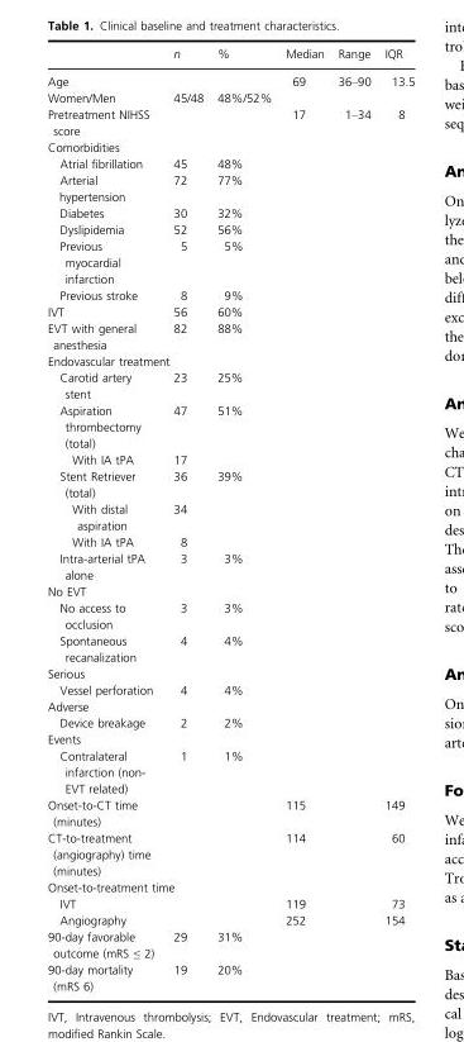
<table><thead><tr><td></td><td>n</td><td>%</td><td>Median</td><td>Range</td><td>IQR</td></tr></thead><tbody><tr><td>Age</td><td></td><td></td><td>69</td><td>36–90</td><td>13.5</td></tr><tr><td>Women/Men</td><td>45/48</td><td>48%/52%</td><td></td><td></td><td></td></tr><tr><td>Pretreatment NIHSS score</td><td></td><td></td><td>17</td><td>1–34</td><td>8</td></tr><tr><td colspan="6">Comorbidities</td></tr><tr><td>Atrial fibrillation</td><td>45</td><td>48%</td><td></td><td></td><td></td></tr><tr><td>Arterial hypertension</td><td>72</td><td>77%</td><td></td><td></td><td></td></tr><tr><td>Diabetes</td><td>30</td><td>32%</td><td></td><td></td><td></td></tr><tr><td>Dyslipidemia</td><td>52</td><td>56%</td><td></td><td></td><td></td></tr><tr><td>Previous myocardial infarction</td><td>5</td><td>5%</td><td></td><td></td><td></td></tr><tr><td>Previous stroke</td><td>8</td><td>9%</td><td></td><td></td><td></td></tr><tr><td>IVT</td><td>56</td><td>60%</td><td></td><td></td><td></td></tr><tr><td>EVT with general anesthesia</td><td>82</td><td>88%</td><td></td><td></td><td></td></tr><tr><td colspan="6">Endovascular treatment</td></tr><tr><td>Carotid artery stent</td><td>23</td><td>25%</td><td></td><td></td><td></td></tr><tr><td>Aspiration thrombectomy (total)</td><td>47</td><td>51%</td><td></td><td></td><td></td></tr><tr><td>With IA tPA</td><td>17</td><td></td><td></td><td></td><td></td></tr><tr><td>Stent Retriever (total)</td><td>36</td><td>39%</td><td></td><td></td><td></td></tr><tr><td>With distal aspiration</td><td>34</td><td></td><td></td><td></td><td></td></tr><tr><td>With IA tPA</td><td>8</td><td></td><td></td><td></td><td></td></tr><tr><td>Intra-arterial tPA alone</td><td>3</td><td>3%</td><td></td><td></td><td></td></tr><tr><td colspan="6">No EVT</td></tr><tr><td>No access to occlusion</td><td>3</td><td>3%</td><td></td><td></td><td></td></tr><tr><td>Spontaneous recanalization</td><td>4</td><td>4%</td><td></td><td></td><td></td></tr><tr><td colspan="6">Serious</td></tr><tr><td>Vessel perforation</td><td>4</td><td>4%</td><td></td><td></td><td></td></tr><tr><td colspan="6">Adverse</td></tr><tr><td>Device breakage</td><td>2</td><td>2%</td><td></td><td></td><td></td></tr><tr><td colspan="6">Events</td></tr><tr><td>Contralateral infarction (non- EVT related)</td><td>1</td><td>1%</td><td></td><td></td><td></td></tr><tr><td>Onset-to-CT time (minutes)</td><td></td><td></td><td>115</td><td></td><td>149</td></tr><tr><td>CT-to-treatment (angiography) time (minutes)</td><td></td><td></td><td>114</td><td></td><td>60</td></tr><tr><td colspan="6">Onset-to-treatment time</td></tr><tr><td>IVT</td><td></td><td></td><td>119</td><td></td><td>73</td></tr><tr><td>Angiography</td><td></td><td></td><td>252</td><td></td><td>154</td></tr><tr><td>90-day favorable outcome (mRS ≤ 2)</td><td>29</td><td>31%</td><td></td><td></td><td></td></tr><tr><td>90-day mortality (mRS 6)</td><td>19</td><td>20%</td><td></td><td></td><td></td></tr></tbody></table>